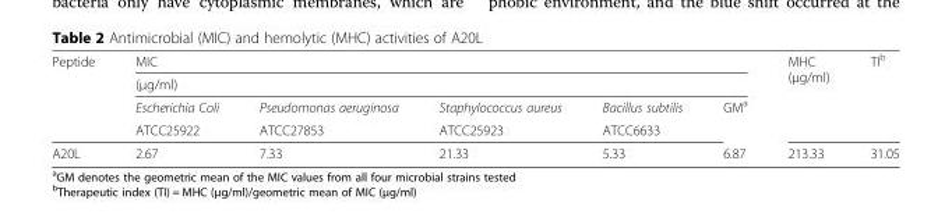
<table><thead><tr><td rowspan="4">Peptide</td><td rowspan="2" colspan="5">MIC (μg/ml)</td><td rowspan="4">MHC (μg/ml)</td><td rowspan="4">TI<sup>b</sup></td></tr><tr></tr><tr><td rowspan="2">Escherichia Coli ATCC25922</td><td rowspan="2">Pseudomonas aeruginosa ATCC27853</td><td rowspan="2">Staphylococcus aureus ATCC25923</td><td rowspan="2">Bacillus subtilis ATCC6633</td><td rowspan="2">GM<sup>a</sup></td></tr><tr></tr></thead><tbody><tr><td>A20L</td><td>2.67</td><td>7.33</td><td>21.33</td><td>5.33</td><td>6.87</td><td>213.33</td><td>31.05</td></tr></tbody></table>